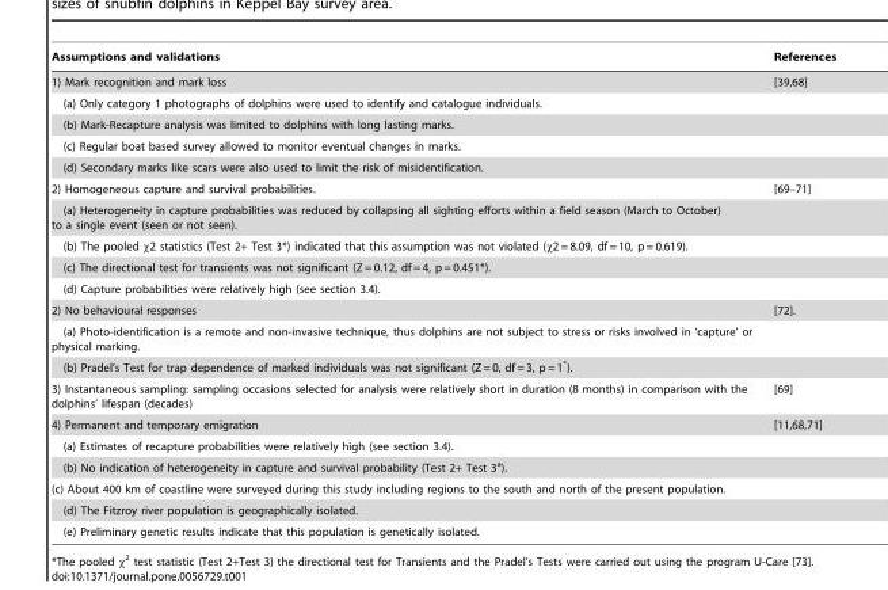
<table><thead><tr><td>Assumptions and validations</td><td>References</td></tr></thead><tbody><tr><td>1) Mark recognition and mark loss</td><td>[39,68]</td></tr><tr><td colspan="2">(a) Only category 1 photographs of dolphins were used to identify and catalogue individuals.</td></tr><tr><td colspan="2">(b) Mark-Recapture analysis was limited to dolphins with long lasting marks.</td></tr><tr><td colspan="2">(c) Regular boat based survey allowed to monitor eventual changes in marks.</td></tr><tr><td colspan="2">(d) Secondary marks like scars were also used to limit the risk of misidentification.</td></tr><tr><td>2) Homogeneous capture and survival probabilities.</td><td>[69–71]</td></tr><tr><td colspan="2">(a) Heterogeneity in capture probabilities was reduced by collapsing all sighting efforts within a field season (March to October) to a single event (seen or not seen).</td></tr><tr><td colspan="2">(b) The pooled χ2 statistics (Test 2+ Test 3*) indicated that this assumption was not violated (χ2 = 8.09, df = 10, p = 0.619).</td></tr><tr><td colspan="2">(c) The directional test for transients was not significant (Z = 0.12, df = 4, p = 0.451*).</td></tr><tr><td colspan="2">(d) Capture probabilities were relatively high (see section 3.4).</td></tr><tr><td>2) No behavioural responses</td><td>[72].</td></tr><tr><td colspan="2">(a) Photo-identification is a remote and non-invasive technique, thus dolphins are not subject to stress or risks involved in ‘capture’ or physical marking.</td></tr><tr><td colspan="2">(b) Pradel’s Test for trap dependence of marked individuals was not significant (Z = 0, df = 3, p = 1*).</td></tr><tr><td>3) Instantaneous sampling: sampling occasions selected for analysis were relatively short in duration (8 months) in comparison with the dolphins’ lifespan (decades)</td><td>[69]</td></tr><tr><td>4) Permanent and temporary emigration</td><td>[11,68,71]</td></tr><tr><td colspan="2">(a) Estimates of recapture probabilities were relatively high (see section 3.4).</td></tr><tr><td colspan="2">(b) No indication of heterogeneity in capture and survival probability (Test 2+ Test 3<sup>a</sup>).</td></tr><tr><td colspan="2">(c) About 400 km of coastline were surveyed during this study including regions to the south and north of the present population.</td></tr><tr><td colspan="2">(d) The Fitzroy river population is geographically isolated.</td></tr><tr><td>(e) Preliminary genetic results indicate that this population is genetically isolated.</td><td></td></tr></tbody></table>